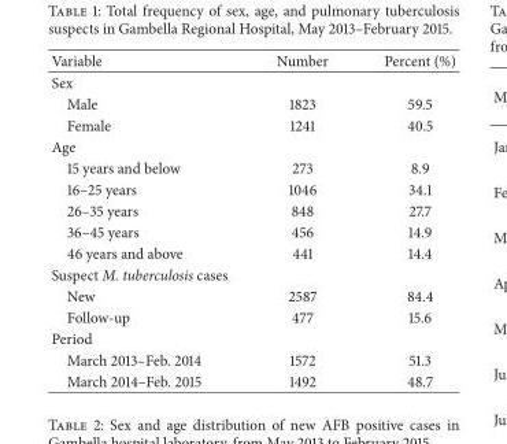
<table><thead><tr><td>Variable</td><td>Number</td><td>Percent (%)</td></tr></thead><tbody><tr><td colspan="3">Sex</td></tr><tr><td>Male</td><td>1823</td><td>59.5</td></tr><tr><td>Female</td><td>1241</td><td>40.5</td></tr><tr><td colspan="3">Age</td></tr><tr><td>15 years and below</td><td>273</td><td>8.9</td></tr><tr><td>16–25 years</td><td>1046</td><td>34.1</td></tr><tr><td>26–35 years</td><td>848</td><td>27.7</td></tr><tr><td>36–45 years</td><td>456</td><td>14.9</td></tr><tr><td>46 years and above</td><td>441</td><td>14.4</td></tr><tr><td colspan="3">Suspect M. tuberculosis cases</td></tr><tr><td>New</td><td>2587</td><td>84.4</td></tr><tr><td>Follow-up</td><td>477</td><td>15.6</td></tr><tr><td colspan="3">Period</td></tr><tr><td>March 2013–Feb. 2014</td><td>1572</td><td>51.3</td></tr><tr><td>March 2014–Feb. 2015</td><td>1492</td><td>48.7</td></tr></tbody></table>